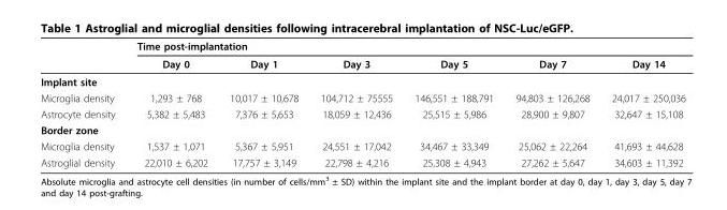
<table><thead><tr><td rowspan="2"></td><td colspan="6">Time post-implantation</td></tr><tr><td>Day 0</td><td>Day 1</td><td>Day 3</td><td>Day 5</td><td>Day 7</td><td>Day 14</td></tr></thead><tbody><tr><td colspan="7">Implant site</td></tr><tr><td>Microglia density</td><td>1,293 ± 768</td><td>10,017 ± 10,678</td><td>104,712 ± 75555</td><td>146,551 ± 188,791</td><td>94,803 ± 126,268</td><td>24,017 ± 250,036</td></tr><tr><td>Astrocyte density</td><td>5,382 ± 5,483</td><td>7,376 ± 5,653</td><td>18,059 ± 12,436</td><td>25,515 ± 5,986</td><td>28,900 ± 9,807</td><td>32,647 ± 15,108</td></tr><tr><td colspan="7">Border zone</td></tr><tr><td>Microglia density</td><td>1,537 ± 1,071</td><td>5,367 ± 5,951</td><td>24,551 ± 17,042</td><td>34,467 ± 33,349</td><td>25,062 ± 22,264</td><td>41,693 ± 44,628</td></tr><tr><td>Astroglial density</td><td>22,010 ± 6,202</td><td>17,757 ± 3,149</td><td>22,798 ± 4,216</td><td>25,308 ± 4,943</td><td>27,262 ± 5,647</td><td>34,603 ± 11,392</td></tr></tbody></table>